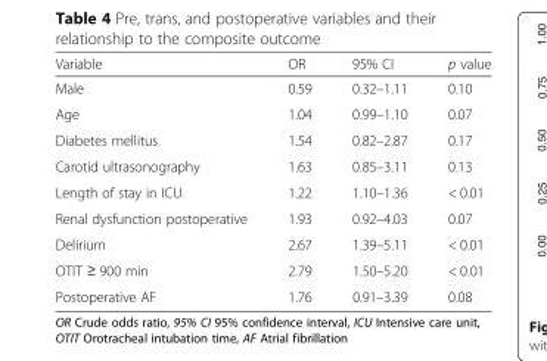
<table><thead><tr><td>Variable</td><td>OR</td><td>95% CI</td><td>p value</td></tr></thead><tbody><tr><td>Male</td><td>0.59</td><td>0.32–1.11</td><td>0.10</td></tr><tr><td>Age</td><td>1.04</td><td>0.99–1.10</td><td>0.07</td></tr><tr><td>Diabetes mellitus</td><td>1.54</td><td>0.82–2.87</td><td>0.17</td></tr><tr><td>Carotid ultrasonography</td><td>1.63</td><td>0.85–3.11</td><td>0.13</td></tr><tr><td>Length of stay in ICU</td><td>1.22</td><td>1.10–1.36</td><td>&lt; 0.01</td></tr><tr><td>Renal dysfunction postoperative</td><td>1.93</td><td>0.92–4.03</td><td>0.07</td></tr><tr><td>Delirium</td><td>2.67</td><td>1.39–5.11</td><td>&lt; 0.01</td></tr><tr><td>OTIT ≥ 900 min</td><td>2.79</td><td>1.50–5.20</td><td>&lt; 0.01</td></tr><tr><td>Postoperative AF</td><td>1.76</td><td>0.91–3.39</td><td>0.08</td></tr></tbody></table>